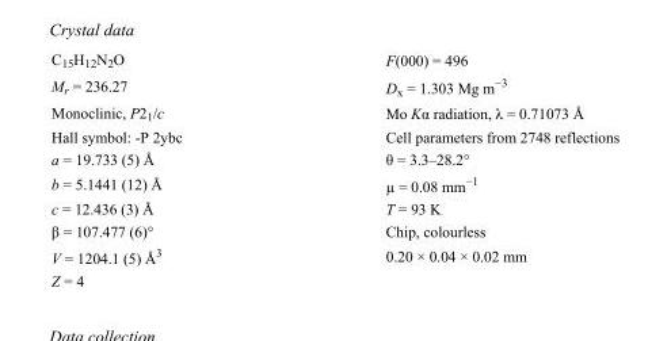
<table><tbody><tr><td>C<sub>15</sub>H<sub>12</sub>N<sub>2</sub>O</td><td>F(000) = 496</td></tr><tr><td>M<sub>r</sub> = 236.27</td><td>D<sub>x</sub> = 1.303 Mg m<sup>−3</sup></td></tr><tr><td>Monoclinic, P2<sub>1</sub>/c</td><td>Mo Kα radiation, λ = 0.71073 Å</td></tr><tr><td>Hall symbol: -P 2ybc</td><td>Cell parameters from 2748 reflections</td></tr><tr><td>a = 19.733 (5) Å</td><td>θ = 3.3–28.2°</td></tr><tr><td>b = 5.1441 (12) Å</td><td>µ = 0.08 mm<sup>−1</sup></td></tr><tr><td>c = 12.436 (3) Å</td><td>T = 93 K</td></tr><tr><td>β = 107.477 (6)°</td><td>Chip, colourless</td></tr><tr><td>V = 1204.1 (5) Å<sup>3</sup></td><td>0.20 × 0.04 × 0.02 mm</td></tr><tr><td>Z = 4</td><td></td></tr></tbody></table>